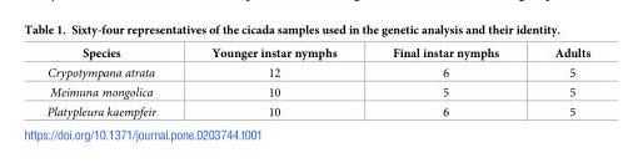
<table><thead><tr><td>Species</td><td>Younger instar nymphs</td><td>Final instar nymphs</td><td>Adults</td></tr></thead><tbody><tr><td>Crypotympana atrata</td><td>12</td><td>6</td><td>5</td></tr><tr><td>Meimuna mongolica</td><td>10</td><td>5</td><td>5</td></tr><tr><td>Platypleura kaempfeir</td><td>10</td><td>6</td><td>5</td></tr></tbody></table>